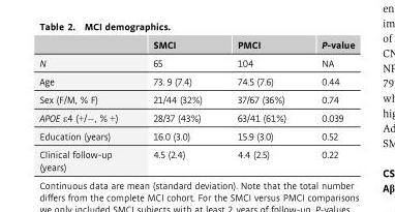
<table><thead><tr><td></td><td>SMCI</td><td>PMCI</td><td>P-value</td></tr></thead><tbody><tr><td>N</td><td>65</td><td>104</td><td>NA</td></tr><tr><td>Age</td><td>73. 9 (7.4)</td><td>74.5 (7.6)</td><td>0.44</td></tr><tr><td>Sex (F/M, % F)</td><td>21/44 (32%)</td><td>37/67 (36%)</td><td>0.74</td></tr><tr><td>APOE ε4 (+/−, % +)</td><td>28/37 (43%)</td><td>63/41 (61%)</td><td>0.039</td></tr><tr><td>Education (years)</td><td>16.0 (3.0)</td><td>15.9 (3.0)</td><td>0.52</td></tr><tr><td>Clinical follow-up (years)</td><td>4.5 (2.4)</td><td>4.4 (2.5)</td><td>0.22</td></tr></tbody></table>